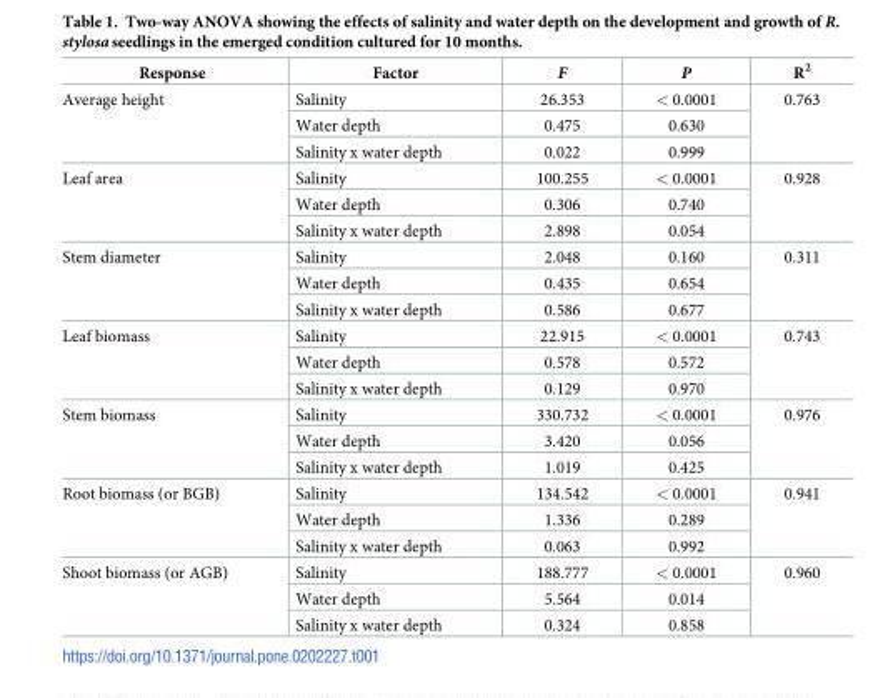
<table><thead><tr><td>Response</td><td>Factor</td><td>F</td><td>P</td><td>R<sup>2</sup></td></tr></thead><tbody><tr><td rowspan="3">Average height</td><td>Salinity</td><td>26.353</td><td>&lt; 0.0001</td><td rowspan="3">0.763</td></tr><tr><td>Water depth</td><td>0.475</td><td>0.630</td></tr><tr><td>Salinity x water depth</td><td>0.022</td><td>0.999</td></tr><tr><td rowspan="3">Leaf area</td><td>Salinity</td><td>100.255</td><td>&lt; 0.0001</td><td rowspan="3">0.928</td></tr><tr><td>Water depth</td><td>0.306</td><td>0.740</td></tr><tr><td>Salinity x water depth</td><td>2.898</td><td>0.054</td></tr><tr><td rowspan="3">Stem diameter</td><td>Salinity</td><td>2.048</td><td>0.160</td><td rowspan="3">0.311</td></tr><tr><td>Water depth</td><td>0.435</td><td>0.654</td></tr><tr><td>Salinity x water depth</td><td>0.586</td><td>0.677</td></tr><tr><td rowspan="3">Leaf biomass</td><td>Salinity</td><td>22.915</td><td>&lt; 0.0001</td><td rowspan="3">0.743</td></tr><tr><td>Water depth</td><td>0.578</td><td>0.572</td></tr><tr><td>Salinity x water depth</td><td>0.129</td><td>0.970</td></tr><tr><td rowspan="3">Stem biomass</td><td>Salinity</td><td>330.732</td><td>&lt; 0.0001</td><td rowspan="3">0.976</td></tr><tr><td>Water depth</td><td>3.420</td><td>0.056</td></tr><tr><td>Salinity x water depth</td><td>1.019</td><td>0.425</td></tr><tr><td rowspan="3">Root biomass (or BGB)</td><td>Salinity</td><td>134.542</td><td>&lt; 0.0001</td><td rowspan="3">0.941</td></tr><tr><td>Water depth</td><td>1.336</td><td>0.289</td></tr><tr><td>Salinity x water depth</td><td>0.063</td><td>0.992</td></tr><tr><td rowspan="3">Shoot biomass (or AGB)</td><td>Salinity</td><td>188.777</td><td>&lt; 0.0001</td><td rowspan="3">0.960</td></tr><tr><td>Water depth</td><td>5.564</td><td>0.014</td></tr><tr><td>Salinity x water depth</td><td>0.324</td><td>0.858</td></tr></tbody></table>